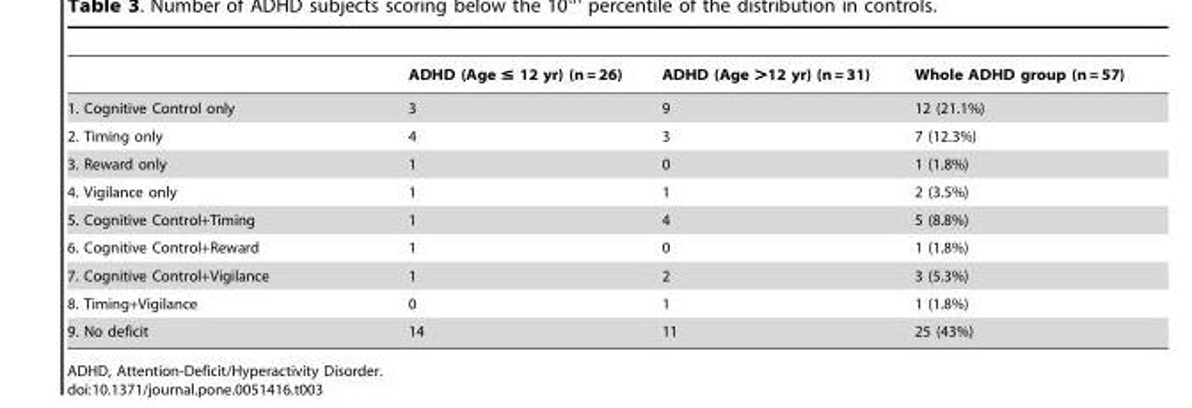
<table><thead><tr><td></td><td>ADHD (Age ≤ 12 yr) (n = 26)</td><td>ADHD (Age &gt;12 yr) (n = 31)</td><td>Whole ADHD group (n = 57)</td></tr></thead><tbody><tr><td>1. Cognitive Control only</td><td>3</td><td>9</td><td>12 (21.1%)</td></tr><tr><td>2. Timing only</td><td>4</td><td>3</td><td>7 (12.3%)</td></tr><tr><td>3. Reward only</td><td>1</td><td>0</td><td>1 (1.8%)</td></tr><tr><td>4. Vigilance only</td><td>1</td><td>1</td><td>2 (3.5%)</td></tr><tr><td>5. Cognitive Control+Timing</td><td>1</td><td>4</td><td>5 (8.8%)</td></tr><tr><td>6. Cognitive Control+Reward</td><td>1</td><td>0</td><td>1 (1.8%)</td></tr><tr><td>7. Cognitive Control+Vigilance</td><td>1</td><td>2</td><td>3 (5.3%)</td></tr><tr><td>8. Timing+Vigilance</td><td>0</td><td>1</td><td>1 (1.8%)</td></tr><tr><td>9. No deficit</td><td>14</td><td>11</td><td>25 (43%)</td></tr></tbody></table>